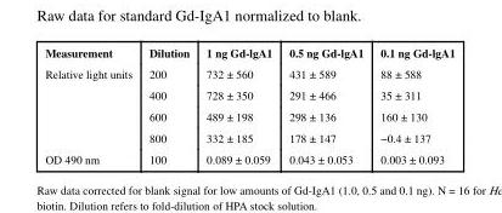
<table><thead><tr><td>Measurement</td><td>Dilution</td><td>1 ng Gd-lgA1</td><td>0.5 ng Gd-lgA1</td><td>0.1 ng Gd-lgA1</td></tr></thead><tbody><tr><td rowspan="4">Relative light units</td><td>200</td><td>732 ± 560</td><td>431 ± 589</td><td>88 ± 588</td></tr><tr><td>400</td><td>728 ± 350</td><td>291 ± 466</td><td>35 ± 311</td></tr><tr><td>600</td><td>489 ± 198</td><td>298 ± 136</td><td>160 ± 130</td></tr><tr><td>800</td><td>332 ± 185</td><td>178 ± 147</td><td>−0.4 ± 137</td></tr><tr><td>OD 490 nm</td><td>100</td><td>0.089 ± 0.059</td><td>0.043 ± 0.053</td><td>0.003 ± 0.093</td></tr></tbody></table>